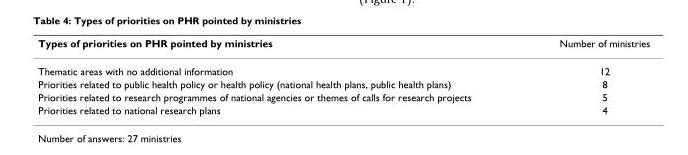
<table><thead><tr><td>Types of priorities on PHR pointed by ministries</td><td>Number of ministries</td></tr></thead><tbody><tr><td>Thematic areas with no additional information</td><td>12</td></tr><tr><td>Priorities related to public health policy or health policy (national health plans, public health plans)</td><td>8</td></tr><tr><td>Priorities related to research programmes of national agencies or themes of calls for research projects</td><td>5</td></tr><tr><td>Priorities related to national research plans</td><td>4</td></tr></tbody></table>